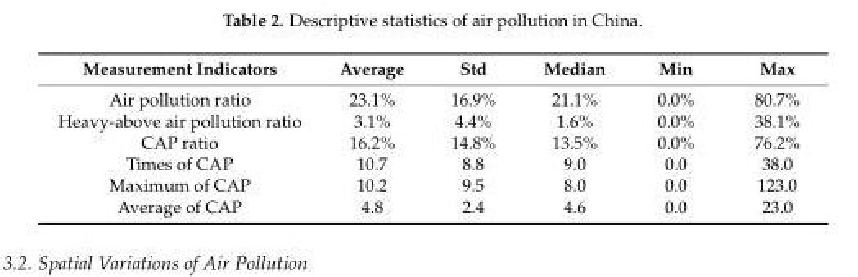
<table><thead><tr><td>Measurement Indicators</td><td>Average</td><td>Std</td><td>Median</td><td>Min</td><td>Max</td></tr></thead><tbody><tr><td>Air pollution ratio</td><td>23.1%</td><td>16.9%</td><td>21.1%</td><td>0.0%</td><td>80.7%</td></tr><tr><td>Heavy-above air pollution ratio</td><td>3.1%</td><td>4.4%</td><td>1.6%</td><td>0.0%</td><td>38.1%</td></tr><tr><td>CAP ratio</td><td>16.2%</td><td>14.8%</td><td>13.5%</td><td>0.0%</td><td>76.2%</td></tr><tr><td>Times of CAP</td><td>10.7</td><td>8.8</td><td>9.0</td><td>0.0</td><td>38.0</td></tr><tr><td>Maximum of CAP</td><td>10.2</td><td>9.5</td><td>8.0</td><td>0.0</td><td>123.0</td></tr><tr><td>Average of CAP</td><td>4.8</td><td>2.4</td><td>4.6</td><td>0.0</td><td>23.0</td></tr></tbody></table>